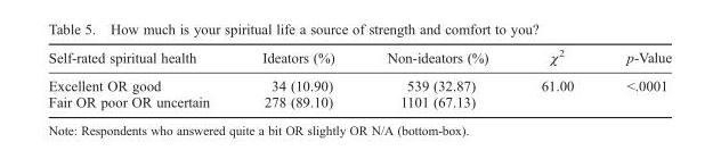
<table><thead><tr><td>Self-rated spiritual health</td><td>Ideators (%)</td><td>Non-ideators (%)</td><td>χ<sup>2</sup></td><td>p-Value</td></tr></thead><tbody><tr><td>Excellent OR good</td><td>34 (10.90)</td><td>539 (32.87)</td><td rowspan="2">61.00</td><td rowspan="2">&lt;.0001</td></tr><tr><td>Fair OR poor OR uncertain</td><td>278 (89.10)</td><td>1101 (67.13)</td></tr></tbody></table>